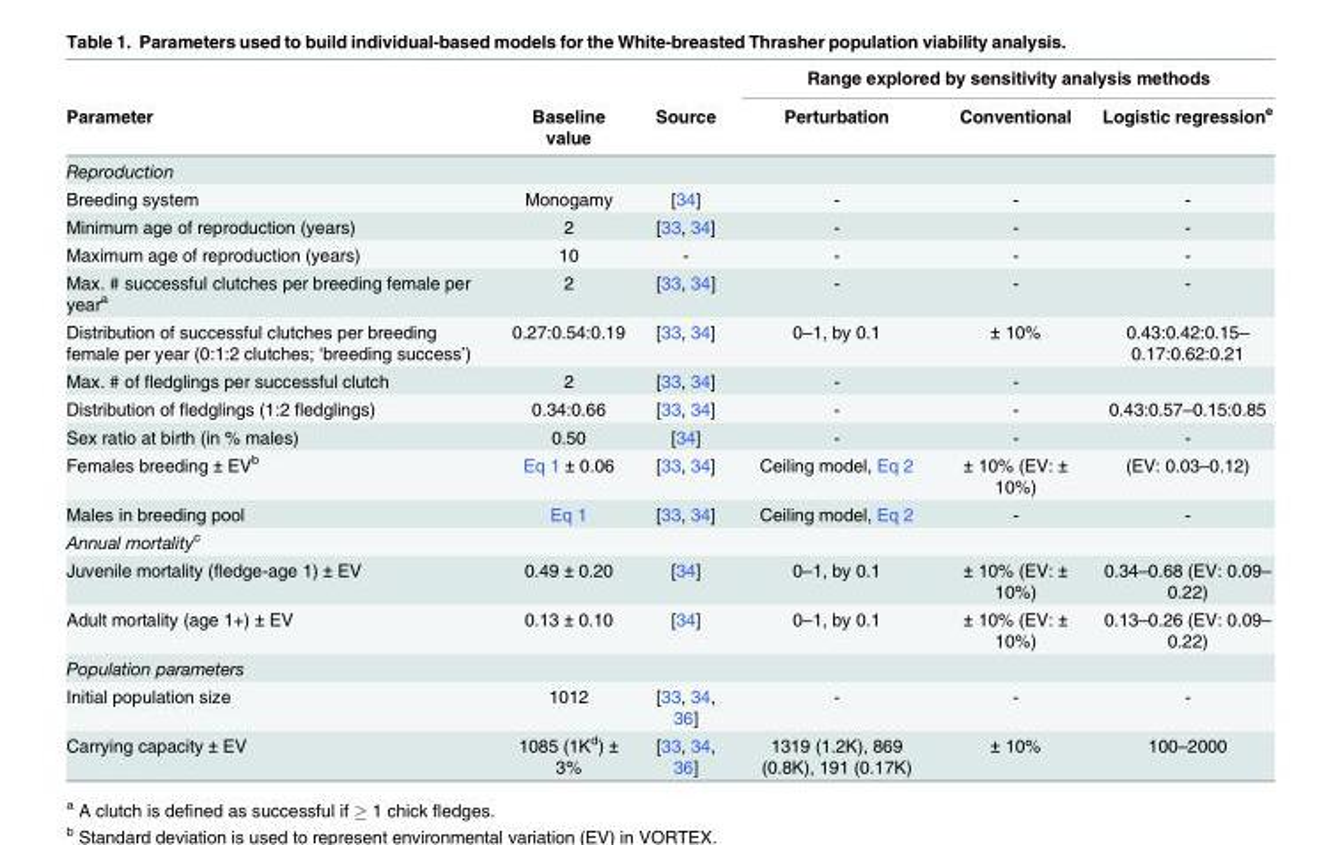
<table><thead><tr><td rowspan="2">Parameter</td><td rowspan="2">Baseline value</td><td rowspan="2">Source</td><td colspan="3">Range explored by sensitivity analysis methods</td></tr><tr><td>Perturbation</td><td>Conventional</td><td>Logistic regression<sup>e</sup></td></tr></thead><tbody><tr><td colspan="6">Reproduction</td></tr><tr><td>Breeding system</td><td>Monogamy</td><td>[34]</td><td>-</td><td>-</td><td>-</td></tr><tr><td>Minimum age of reproduction (years)</td><td>2</td><td>[33, 34]</td><td>-</td><td>-</td><td>-</td></tr><tr><td>Maximum age of reproduction (years)</td><td>10</td><td>-</td><td>-</td><td>-</td><td>-</td></tr><tr><td>Max. # successful clutches per breeding female per year<sup>a</sup></td><td>2</td><td>[33, 34]</td><td>-</td><td>-</td><td>-</td></tr><tr><td>Distribution of successful clutches per breeding female per year (0:1:2 clutches; ‘breeding success’)</td><td>0.27:0.54:0.19</td><td>[33, 34]</td><td>0–1, by 0.1</td><td>± 10%</td><td>0.43:0.42:0.15– 0.17:0.62:0.21</td></tr><tr><td>Max. # of fledglings per successful clutch</td><td>2</td><td>[33, 34]</td><td>-</td><td>-</td><td></td></tr><tr><td>Distribution of fledglings (1:2 fledglings)</td><td>0.34:0.66</td><td>[33, 34]</td><td>-</td><td>-</td><td>0.43:0.57–0.15:0.85</td></tr><tr><td>Sex ratio at birth (in % males)</td><td>0.50</td><td>[34]</td><td>-</td><td>-</td><td>-</td></tr><tr><td>Females breeding ± EV<sup>b</sup></td><td>Eq 1 ± 0.06</td><td>[33, 34]</td><td>Ceiling model, Eq 2</td><td>± 10% (EV: ± 10%)</td><td>(EV: 0.03–0.12)</td></tr><tr><td>Males in breeding pool</td><td>Eq 1</td><td>[33, 34]</td><td>Ceiling model, Eq 2</td><td>-</td><td>-</td></tr><tr><td colspan="6">Annual mortality<sup>c</sup></td></tr><tr><td>Juvenile mortality (fledge-age 1) ± EV</td><td>0.49 ± 0.20</td><td>[34]</td><td>0–1, by 0.1</td><td>± 10% (EV: ± 10%)</td><td>0.34–0.68 (EV: 0.09– 0.22)</td></tr><tr><td>Adult mortality (age 1+) ± EV</td><td>0.13 ± 0.10</td><td>[34]</td><td>0–1, by 0.1</td><td>± 10% (EV: ± 10%)</td><td>0.13–0.26 (EV: 0.09– 0.22)</td></tr><tr><td colspan="6">Population parameters</td></tr><tr><td>Initial population size</td><td>1012</td><td>[33, 34, 36]</td><td>-</td><td>-</td><td>-</td></tr><tr><td>Carrying capacity ± EV</td><td>1085 (1K<sup>d</sup>) ± 3%</td><td>[33, 34, 36]</td><td>1319 (1.2K), 869 (0.8K), 191 (0.17K)</td><td>± 10%</td><td>100–2000</td></tr></tbody></table>